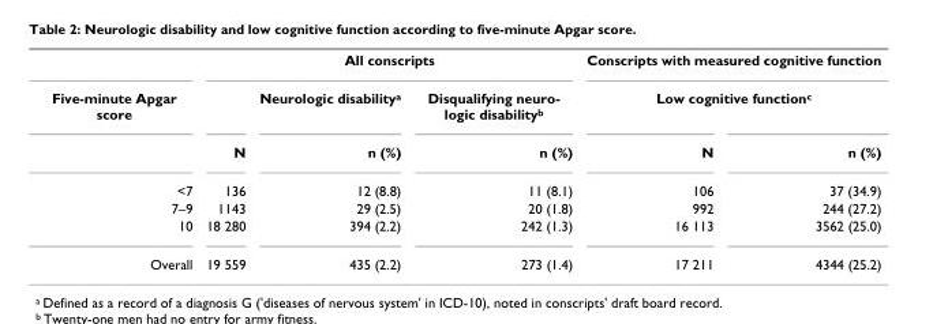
<table><thead><tr><td rowspan="3">Five-minute Apgar score</td><td colspan="3">All conscripts</td><td rowspan="2" colspan="2">Conscripts with measured cognitive function Low cognitive function<sup>c</sup></td></tr><tr><td rowspan="2">N</td><td rowspan="2">Neurologic disability<sup>a</sup> n (%)</td><td rowspan="2">Disqualifying neuro- logic disabilityb n (%)</td></tr><tr><td>N</td><td>n (%)</td></tr></thead><tbody><tr><td>&lt;7</td><td>136</td><td>12 (8.8)</td><td>11 (8.1)</td><td>106</td><td>37 (34.9)</td></tr><tr><td>7–9</td><td>1143</td><td>29 (2.5)</td><td>20 (1.8)</td><td>992</td><td>244 (27.2)</td></tr><tr><td>10</td><td>18 280</td><td>394 (2.2)</td><td>242 (1.3)</td><td>16 113</td><td>3562 (25.0)</td></tr><tr><td>Overall</td><td>19 559</td><td>435 (2.2)</td><td>273 (1.4)</td><td>17 211</td><td>4344 (25.2)</td></tr></tbody></table>